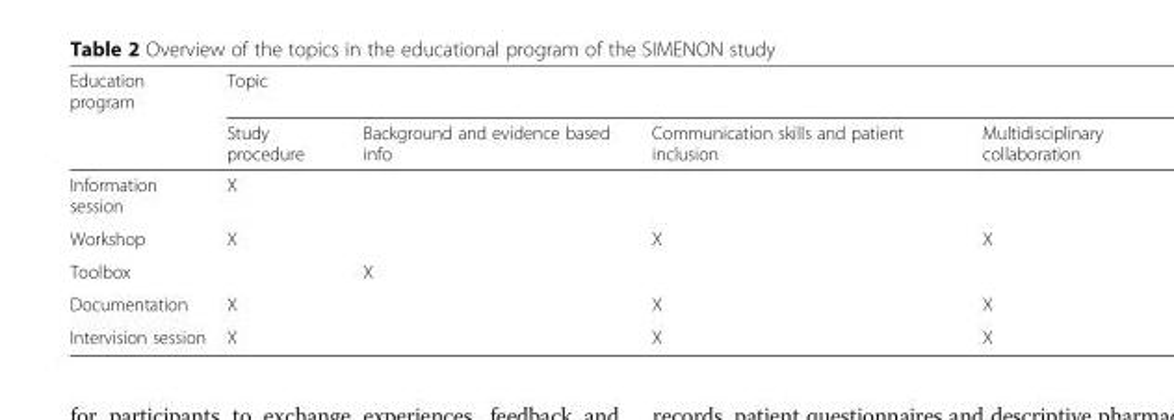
<table><thead><tr><td rowspan="2">Education program</td><td colspan="4">Topic</td></tr><tr><td>Study procedure</td><td>Background and evidence based info</td><td>Communication skills and patient inclusion</td><td>Multidisciplinary collaboration</td></tr></thead><tbody><tr><td>Information session</td><td>X</td><td></td><td></td><td></td></tr><tr><td>Workshop</td><td>X</td><td></td><td>X</td><td>X</td></tr><tr><td>Toolbox</td><td></td><td>X</td><td></td><td></td></tr><tr><td>Documentation</td><td>X</td><td></td><td>X</td><td>X</td></tr><tr><td>Intervision session</td><td>X</td><td></td><td>X</td><td>X</td></tr></tbody></table>